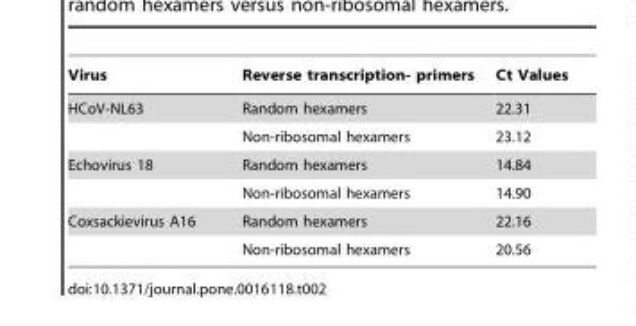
<table><thead><tr><td>Virus</td><td>Reverse transcription- primers</td><td>Ct Values</td></tr></thead><tbody><tr><td rowspan="2">HCoV-NL63</td><td>Random hexamers</td><td>22.31</td></tr><tr><td>Non-ribosomal hexamers</td><td>23.12</td></tr><tr><td rowspan="2">Echovirus 18</td><td>Random hexamers</td><td>14.84</td></tr><tr><td>Non-ribosomal hexamers</td><td>14.90</td></tr><tr><td rowspan="2">Coxsackievirus A16</td><td>Random hexamers</td><td>22.16</td></tr><tr><td>Non-ribosomal hexamers</td><td>20.56</td></tr></tbody></table>